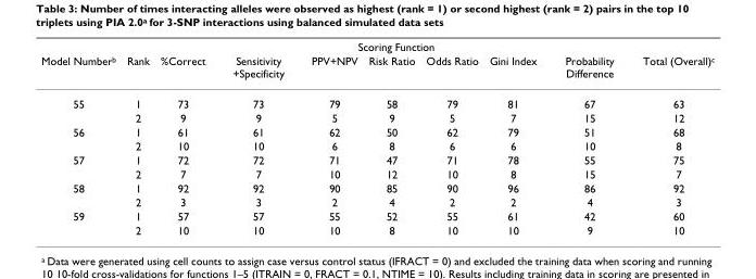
<table><thead><tr><td rowspan="2">Model Number<sup>b</sup></td><td rowspan="2">Rank</td><td colspan="7">Scoring Function</td><td rowspan="2">Total (Overall)<sup>c</sup></td></tr><tr><td>%Correct</td><td>Sensitivity +Specificity</td><td>PPV+NPV</td><td>Risk Ratio</td><td>Odds Ratio</td><td>Gini Index</td><td>Probability Difference</td></tr></thead><tbody><tr><td rowspan="2">55</td><td>1</td><td>73</td><td>73</td><td>79</td><td>58</td><td>79</td><td>81</td><td>67</td><td>63</td></tr><tr><td>2</td><td>9</td><td>9</td><td>5</td><td>9</td><td>5</td><td>7</td><td>15</td><td>12</td></tr><tr><td rowspan="2">56</td><td>1</td><td>61</td><td>61</td><td>62</td><td>50</td><td>62</td><td>79</td><td>51</td><td>68</td></tr><tr><td>2</td><td>10</td><td>10</td><td>6</td><td>8</td><td>6</td><td>6</td><td>10</td><td>8</td></tr><tr><td rowspan="2">57</td><td>1</td><td>72</td><td>72</td><td>71</td><td>47</td><td>71</td><td>78</td><td>55</td><td>75</td></tr><tr><td>2</td><td>7</td><td>7</td><td>10</td><td>12</td><td>10</td><td>8</td><td>15</td><td>7</td></tr><tr><td rowspan="2">58</td><td>1</td><td>92</td><td>92</td><td>90</td><td>85</td><td>90</td><td>96</td><td>86</td><td>92</td></tr><tr><td>2</td><td>3</td><td>3</td><td>2</td><td>4</td><td>2</td><td>2</td><td>4</td><td>3</td></tr><tr><td rowspan="2">59</td><td>1</td><td>57</td><td>57</td><td>55</td><td>52</td><td>55</td><td>61</td><td>42</td><td>60</td></tr><tr><td>2</td><td>10</td><td>10</td><td>10</td><td>8</td><td>10</td><td>10</td><td>9</td><td>10</td></tr></tbody></table>